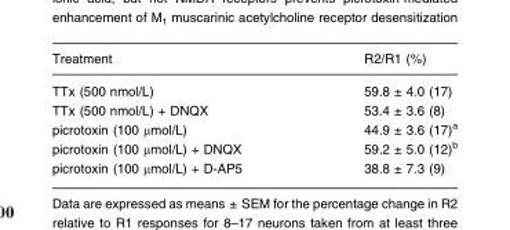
<table><thead><tr><td>Treatment</td><td>R2/R1 (%)</td></tr></thead><tbody><tr><td>TTx (500 nmol/L)</td><td>59.8 ± 4.0 (17)</td></tr><tr><td>TTx (500 nmol/L) + DNQX</td><td>53.4 ± 3.6 (8)</td></tr><tr><td>picrotoxin (100 μmol/L)</td><td>44.9 ± 3.6 (17)<sup>a</sup></td></tr><tr><td>picrotoxin (100 μmol/L) + DNQX</td><td>59.2 ± 5.0 (12)<sup>b</sup></td></tr><tr><td>picrotoxin (100 μmol/L) + D-AP5</td><td>38.8 ± 7.3 (9)</td></tr></tbody></table>